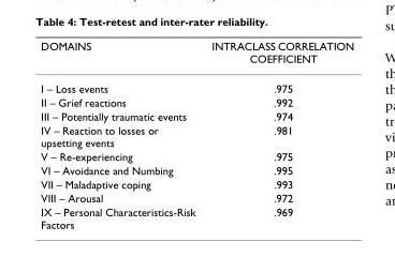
<table><thead><tr><td>DOMAINS</td><td>INTRACLASS CORRELATION COEFFICIENT</td></tr></thead><tbody><tr><td>I – Loss events</td><td>.975</td></tr><tr><td>II – Grief reactions</td><td>.992</td></tr><tr><td>III – Potentially traumatic events</td><td>.974</td></tr><tr><td>IV – Reaction to losses or upsetting events</td><td>.981</td></tr><tr><td>V – Re-experiencing</td><td>.975</td></tr><tr><td>VI – Avoidance and Numbing</td><td>.995</td></tr><tr><td>VII – Maladaptive coping</td><td>.993</td></tr><tr><td>VIII – Arousal</td><td>.972</td></tr><tr><td>IX – Personal Characteristics-Risk Factors</td><td>.969</td></tr></tbody></table>